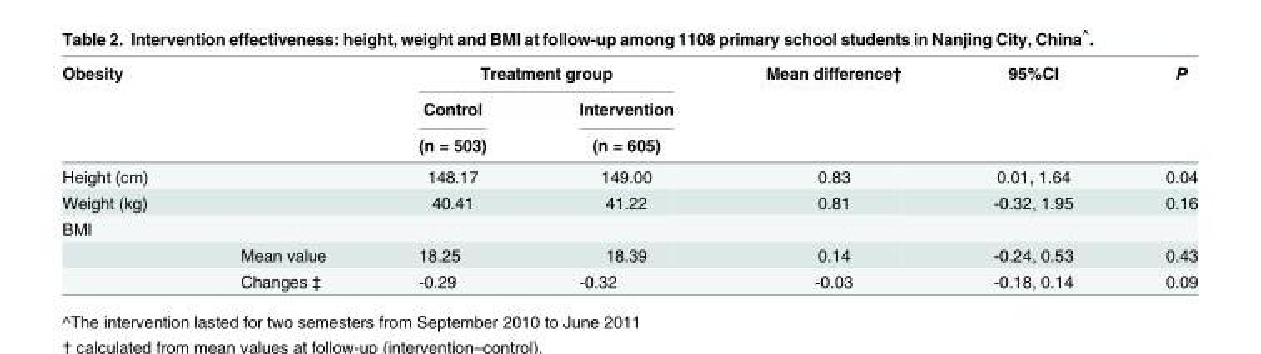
<table><thead><tr><td rowspan="3">Obesity</td><td rowspan="3"></td><td colspan="2">Treatment group</td><td rowspan="3">Mean difference†</td><td rowspan="3">95%CI</td><td rowspan="3">P</td></tr><tr><td rowspan="2">Control (n = 503)</td><td rowspan="2">Intervention (n = 605)</td></tr><tr></tr></thead><tbody><tr><td>Height (cm)</td><td></td><td>148.17</td><td>149.00</td><td>0.83</td><td>0.01, 1.64</td><td>0.04</td></tr><tr><td>Weight (kg)</td><td></td><td>40.41</td><td>41.22</td><td>0.81</td><td>-0.32, 1.95</td><td>0.16</td></tr><tr><td colspan="7">BMI</td></tr><tr><td></td><td>Mean value</td><td>18.25</td><td>18.39</td><td>0.14</td><td>-0.24, 0.53</td><td>0.43</td></tr><tr><td></td><td>Changes ‡</td><td>-0.29</td><td>-0.32</td><td>-0.03</td><td>-0.18, 0.14</td><td>0.09</td></tr></tbody></table>